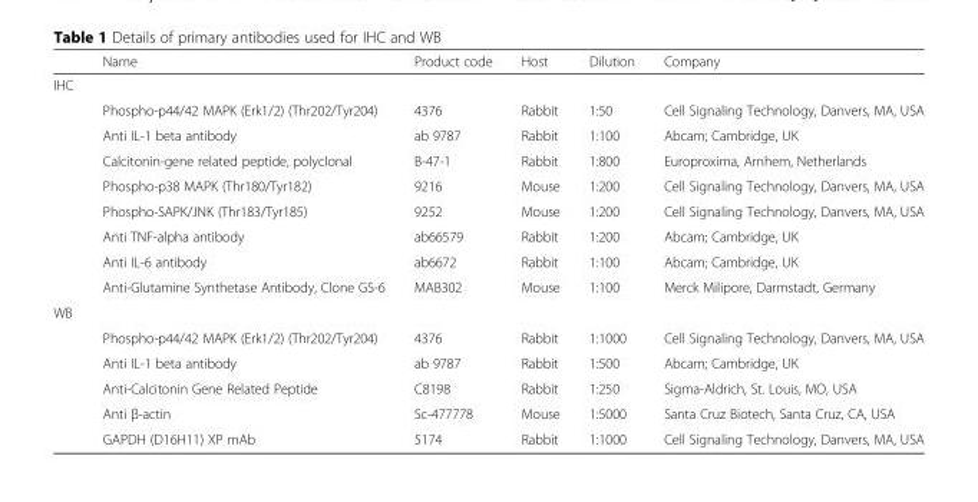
<table><thead><tr><td></td><td>Name</td><td>Product code</td><td>Host</td><td>Dilution</td><td>Company</td></tr></thead><tbody><tr><td colspan="6">IHC</td></tr><tr><td></td><td>Phospho-p44/42 MAPK (Erk1/2) (Thr202/Tyr204)</td><td>4376</td><td>Rabbit</td><td>1:50</td><td>Cell Signaling Technology, Danvers, MA, USA</td></tr><tr><td></td><td>Anti IL-1 beta antibody</td><td>ab 9787</td><td>Rabbit</td><td>1:100</td><td>Abcam; Cambridge, UK</td></tr><tr><td></td><td>Calcitonin-gene related peptide, polyclonal</td><td>B-47-1</td><td>Rabbit</td><td>1:800</td><td>Europroxima, Arnhem, Netherlands</td></tr><tr><td></td><td>Phospho-p38 MAPK (Thr180/Tyr182)</td><td>9216</td><td>Mouse</td><td>1:200</td><td>Cell Signaling Technology, Danvers, MA, USA</td></tr><tr><td></td><td>Phospho-SAPK/JNK (Thr183/Tyr185)</td><td>9252</td><td>Mouse</td><td>1:200</td><td>Cell Signaling Technology, Danvers, MA, USA</td></tr><tr><td></td><td>Anti TNF-alpha antibody</td><td>ab66579</td><td>Rabbit</td><td>1:200</td><td>Abcam; Cambridge, UK</td></tr><tr><td></td><td>Anti IL-6 antibody</td><td>ab6672</td><td>Rabbit</td><td>1:100</td><td>Abcam; Cambridge, UK</td></tr><tr><td></td><td>Anti-Glutamine Synthetase Antibody, Clone GS-6</td><td>MAB302</td><td>Mouse</td><td>1:100</td><td>Merck Milipore, Darmstadt, Germany</td></tr><tr><td colspan="6">WB</td></tr><tr><td></td><td>Phospho-p44/42 MAPK (Erk1/2) (Thr202/Tyr204)</td><td>4376</td><td>Rabbit</td><td>1:1000</td><td>Cell Signaling Technology, Danvers, MA, USA</td></tr><tr><td></td><td>Anti IL-1 beta antibody</td><td>ab 9787</td><td>Rabbit</td><td>1:500</td><td>Abcam; Cambridge, UK</td></tr><tr><td></td><td>Anti-Calcitonin Gene Related Peptide</td><td>C8198</td><td>Rabbit</td><td>1:250</td><td>Sigma-Aldrich, St. Louis, MO, USA</td></tr><tr><td></td><td>Anti β-actin</td><td>Sc-477778</td><td>Mouse</td><td>1:5000</td><td>Santa Cruz Biotech, Santa Cruz, CA, USA</td></tr><tr><td></td><td>GAPDH (D16H11) XP mAb</td><td>5174</td><td>Rabbit</td><td>1:1000</td><td>Cell Signaling Technology, Danvers, MA, USA</td></tr></tbody></table>